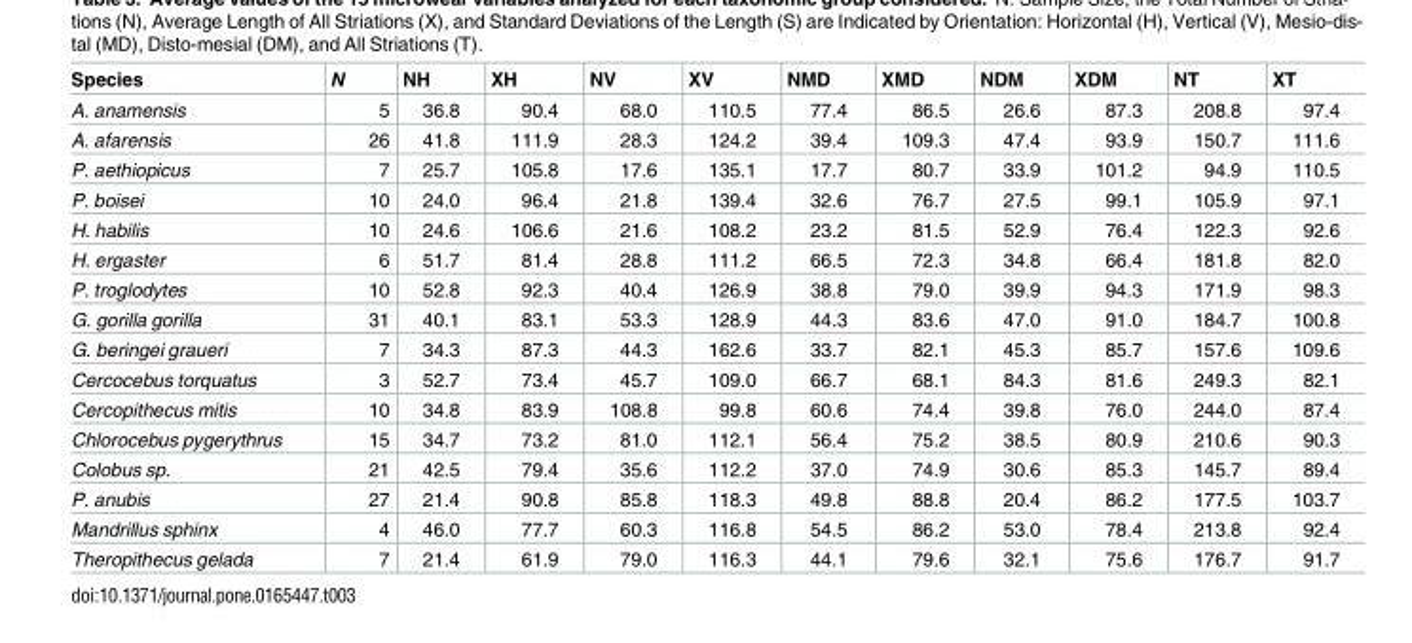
<table><thead><tr><td>Species</td><td>N</td><td>NH</td><td>XH</td><td>NV</td><td>XV</td><td>NMD</td><td>XMD</td><td>NDM</td><td>XDM</td><td>NT</td><td>XT</td></tr></thead><tbody><tr><td>A. anamensis</td><td>5</td><td>36.8</td><td>90.4</td><td>68.0</td><td>110.5</td><td>77.4</td><td>86.5</td><td>26.6</td><td>87.3</td><td>208.8</td><td>97.4</td></tr><tr><td>A. afarensis</td><td>26</td><td>41.8</td><td>111.9</td><td>28.3</td><td>124.2</td><td>39.4</td><td>109.3</td><td>47.4</td><td>93.9</td><td>150.7</td><td>111.6</td></tr><tr><td>P. aethiopicus</td><td>7</td><td>25.7</td><td>105.8</td><td>17.6</td><td>135.1</td><td>17.7</td><td>80.7</td><td>33.9</td><td>101.2</td><td>94.9</td><td>110.5</td></tr><tr><td>P. boisei</td><td>10</td><td>24.0</td><td>96.4</td><td>21.8</td><td>139.4</td><td>32.6</td><td>76.7</td><td>27.5</td><td>99.1</td><td>105.9</td><td>97.1</td></tr><tr><td>H. habilis</td><td>10</td><td>24.6</td><td>106.6</td><td>21.6</td><td>108.2</td><td>23.2</td><td>81.5</td><td>52.9</td><td>76.4</td><td>122.3</td><td>92.6</td></tr><tr><td>H. ergaster</td><td>6</td><td>51.7</td><td>81.4</td><td>28.8</td><td>111.2</td><td>66.5</td><td>72.3</td><td>34.8</td><td>66.4</td><td>181.8</td><td>82.0</td></tr><tr><td>P. troglodytes</td><td>10</td><td>52.8</td><td>92.3</td><td>40.4</td><td>126.9</td><td>38.8</td><td>79.0</td><td>39.9</td><td>94.3</td><td>171.9</td><td>98.3</td></tr><tr><td>G. gorilla gorilla</td><td>31</td><td>40.1</td><td>83.1</td><td>53.3</td><td>128.9</td><td>44.3</td><td>83.6</td><td>47.0</td><td>91.0</td><td>184.7</td><td>100.8</td></tr><tr><td>G. beringei graueri</td><td>7</td><td>34.3</td><td>87.3</td><td>44.3</td><td>162.6</td><td>33.7</td><td>82.1</td><td>45.3</td><td>85.7</td><td>157.6</td><td>109.6</td></tr><tr><td>Cercocebus torquatus</td><td>3</td><td>52.7</td><td>73.4</td><td>45.7</td><td>109.0</td><td>66.7</td><td>68.1</td><td>84.3</td><td>81.6</td><td>249.3</td><td>82.1</td></tr><tr><td>Cercopithecus mitis</td><td>10</td><td>34.8</td><td>83.9</td><td>108.8</td><td>99.8</td><td>60.6</td><td>74.4</td><td>39.8</td><td>76.0</td><td>244.0</td><td>87.4</td></tr><tr><td>Chlorocebus pygerythrus</td><td>15</td><td>34.7</td><td>73.2</td><td>81.0</td><td>112.1</td><td>56.4</td><td>75.2</td><td>38.5</td><td>80.9</td><td>210.6</td><td>90.3</td></tr><tr><td>Colobus sp.</td><td>21</td><td>42.5</td><td>79.4</td><td>35.6</td><td>112.2</td><td>37.0</td><td>74.9</td><td>30.6</td><td>85.3</td><td>145.7</td><td>89.4</td></tr><tr><td>P. anubis</td><td>27</td><td>21.4</td><td>90.8</td><td>85.8</td><td>118.3</td><td>49.8</td><td>88.8</td><td>20.4</td><td>86.2</td><td>177.5</td><td>103.7</td></tr><tr><td>Mandrillus sphinx</td><td>4</td><td>46.0</td><td>77.7</td><td>60.3</td><td>116.8</td><td>54.5</td><td>86.2</td><td>53.0</td><td>78.4</td><td>213.8</td><td>92.4</td></tr><tr><td>Theropithecus gelada</td><td>7</td><td>21.4</td><td>61.9</td><td>79.0</td><td>116.3</td><td>44.1</td><td>79.6</td><td>32.1</td><td>75.6</td><td>176.7</td><td>91.7</td></tr></tbody></table>